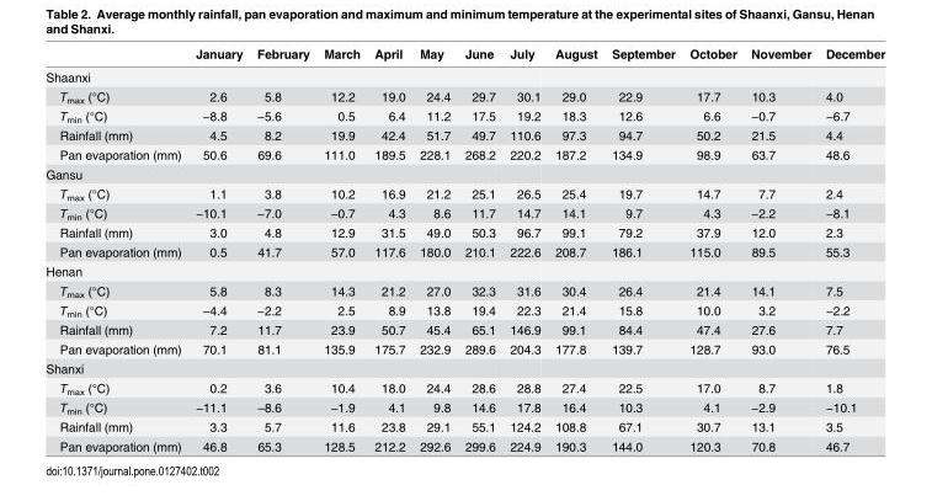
<table><thead><tr><td></td><td>January</td><td>February</td><td>March</td><td>April</td><td>May</td><td>June</td><td>July</td><td>August</td><td>September</td><td>October</td><td>November</td><td>December</td></tr></thead><tbody><tr><td colspan="13">Shaanxi</td></tr><tr><td>T<sub>max</sub> (°C)</td><td>2.6</td><td>5.8</td><td>12.2</td><td>19.0</td><td>24.4</td><td>29.7</td><td>30.1</td><td>29.0</td><td>22.9</td><td>17.7</td><td>10.3</td><td>4.0</td></tr><tr><td>T<sub>min</sub> (°C)</td><td>−8.8</td><td>−5.6</td><td>0.5</td><td>6.4</td><td>11.2</td><td>17.5</td><td>19.2</td><td>18.3</td><td>12.6</td><td>6.6</td><td>−0.7</td><td>−6.7</td></tr><tr><td>Rainfall (mm)</td><td>4.5</td><td>8.2</td><td>19.9</td><td>42.4</td><td>51.7</td><td>49.7</td><td>110.6</td><td>97.3</td><td>94.7</td><td>50.2</td><td>21.5</td><td>4.4</td></tr><tr><td>Pan evaporation (mm)</td><td>50.6</td><td>69.6</td><td>111.0</td><td>189.5</td><td>228.1</td><td>268.2</td><td>220.2</td><td>187.2</td><td>134.9</td><td>98.9</td><td>63.7</td><td>48.6</td></tr><tr><td colspan="13">Gansu</td></tr><tr><td>T<sub>max</sub> (°C)</td><td>1.1</td><td>3.8</td><td>10.2</td><td>16.9</td><td>21.2</td><td>25.1</td><td>26.5</td><td>25.4</td><td>19.7</td><td>14.7</td><td>7.7</td><td>2.4</td></tr><tr><td>T<sub>min</sub> (°C)</td><td>−10.1</td><td>−7.0</td><td>−0.7</td><td>4.3</td><td>8.6</td><td>11.7</td><td>14.7</td><td>14.1</td><td>9.7</td><td>4.3</td><td>−2.2</td><td>−8.1</td></tr><tr><td>Rainfall (mm)</td><td>3.0</td><td>4.8</td><td>12.9</td><td>31.5</td><td>49.0</td><td>50.3</td><td>96.7</td><td>99.1</td><td>79.2</td><td>37.9</td><td>12.0</td><td>2.3</td></tr><tr><td>Pan evaporation (mm)</td><td>0.5</td><td>41.7</td><td>57.0</td><td>117.6</td><td>180.0</td><td>210.1</td><td>222.6</td><td>208.7</td><td>186.1</td><td>115.0</td><td>89.5</td><td>55.3</td></tr><tr><td colspan="13">Henan</td></tr><tr><td>T<sub>max</sub> (°C)</td><td>5.8</td><td>8.3</td><td>14.3</td><td>21.2</td><td>27.0</td><td>32.3</td><td>31.6</td><td>30.4</td><td>26.4</td><td>21.4</td><td>14.1</td><td>7.5</td></tr><tr><td>T<sub>min</sub> (°C)</td><td>−4.4</td><td>−2.2</td><td>2.5</td><td>8.9</td><td>13.8</td><td>19.4</td><td>22.3</td><td>21.4</td><td>15.8</td><td>10.0</td><td>3.2</td><td>−2.2</td></tr><tr><td>Rainfall (mm)</td><td>7.2</td><td>11.7</td><td>23.9</td><td>50.7</td><td>45.4</td><td>65.1</td><td>146.9</td><td>99.1</td><td>84.4</td><td>47.4</td><td>27.6</td><td>7.7</td></tr><tr><td>Pan evaporation (mm)</td><td>70.1</td><td>81.1</td><td>135.9</td><td>175.7</td><td>232.9</td><td>289.6</td><td>204.3</td><td>177.8</td><td>139.7</td><td>128.7</td><td>93.0</td><td>76.5</td></tr><tr><td colspan="13">Shanxi</td></tr><tr><td>T<sub>max</sub> (°C)</td><td>0.2</td><td>3.6</td><td>10.4</td><td>18.0</td><td>24.4</td><td>28.6</td><td>28.8</td><td>27.4</td><td>22.5</td><td>17.0</td><td>8.7</td><td>1.8</td></tr><tr><td>T<sub>min</sub> (°C)</td><td>−11.1</td><td>–8.6</td><td>−1.9</td><td>4.1</td><td>9.8</td><td>14.6</td><td>17.8</td><td>16.4</td><td>10.3</td><td>4.1</td><td>−2.9</td><td>−10.1</td></tr><tr><td>Rainfall (mm)</td><td>3.3</td><td>5.7</td><td>11.6</td><td>23.8</td><td>29.1</td><td>55.1</td><td>124.2</td><td>108.8</td><td>67.1</td><td>30.7</td><td>13.1</td><td>3.5</td></tr><tr><td>Pan evaporation (mm)</td><td>46.8</td><td>65.3</td><td>128.5</td><td>212.2</td><td>292.6</td><td>299.6</td><td>224.9</td><td>190.3</td><td>144.0</td><td>120.3</td><td>70.8</td><td>46.7</td></tr></tbody></table>